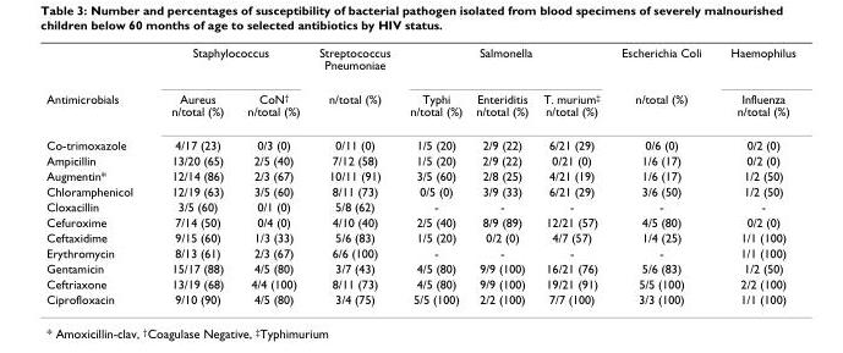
<table><thead><tr><td rowspan="2">Antimicrobials</td><td colspan="2">Staphylococcus</td><td rowspan="2">Streptococcus Pneumoniae n/total (%)</td><td colspan="3">Salmonella</td><td rowspan="2">Escherichia Coli n/total (%)</td><td rowspan="2">Haemophilus Influenza n/total (%)</td></tr><tr><td>Aureus n/total (%)</td><td>CoN<sup>†</sup> n/total (%)</td><td>Typhi n/total (%)</td><td>Enteriditis n/total (%)</td><td>T. murium<sup>‡</sup> n/total (%)</td></tr></thead><tbody><tr><td>Co-trimoxazole</td><td>4/17 (23)</td><td>0/3 (0)</td><td>0/11 (0)</td><td>1/5 (20)</td><td>2/9 (22)</td><td>6/21 (29)</td><td>0/6 (0)</td><td>0/2 (0)</td></tr><tr><td>Ampicillin</td><td>13/20 (65)</td><td>2/5 (40)</td><td>7/12 (58)</td><td>1/5 (20)</td><td>2/9 (22)</td><td>0/21 (0)</td><td>1/6 (17)</td><td>0/2 (0)</td></tr><tr><td>Augmentin*</td><td>12/14 (86)</td><td>2/3 (67)</td><td>10/11 (91)</td><td>3/5 (60)</td><td>2/8 (25)</td><td>4/21 (19)</td><td>1/6 (17)</td><td>1/2 (50)</td></tr><tr><td>Chloramphenicol</td><td>12/19 (63)</td><td>3/5 (60)</td><td>8/11 (73)</td><td>0/5 (0)</td><td>3/9 (33)</td><td>6/21 (29)</td><td>3/6 (50)</td><td>1/2 (50)</td></tr><tr><td>Cloxacillin</td><td>3/5 (60)</td><td>0/1 (0)</td><td>5/8 (62)</td><td>-</td><td>-</td><td>-</td><td>-</td><td>-</td></tr><tr><td>Cefuroxime</td><td>7/14 (50)</td><td>0/4 (0)</td><td>4/10 (40)</td><td>2/5 (40)</td><td>8/9 (89)</td><td>12/21 (57)</td><td>4/5 (80)</td><td>0/2 (0)</td></tr><tr><td>Ceftaxidime</td><td>9/15 (60)</td><td>1/3 (33)</td><td>5/6 (83)</td><td>1/5 (20)</td><td>0/2 (0)</td><td>4/7 (57)</td><td>1/4 (25)</td><td>1/1 (100)</td></tr><tr><td>Erythromycin</td><td>8/13 (61)</td><td>2/3 (67)</td><td>6/6 (100)</td><td>-</td><td>-</td><td>-</td><td>-</td><td>1/1 (100)</td></tr><tr><td>Gentamicin</td><td>15/17 (88)</td><td>4/5 (80)</td><td>3/7 (43)</td><td>4/5 (80)</td><td>9/9 (100)</td><td>16/21 (76)</td><td>5/6 (83)</td><td>1/2 (50)</td></tr><tr><td>Ceftriaxone</td><td>13/19 (68)</td><td>4/4 (100)</td><td>8/11 (73)</td><td>4/5 (80)</td><td>9/9 (100)</td><td>19/21 (91)</td><td>5/5 (100)</td><td>2/2 (100)</td></tr><tr><td>Ciprofloxacin</td><td>9/10 (90)</td><td>4/5 (80)</td><td>3/4 (75)</td><td>5/5 (100)</td><td>2/2 (100)</td><td>7/7 (100)</td><td>3/3 (100)</td><td>1/1 (100)</td></tr></tbody></table>